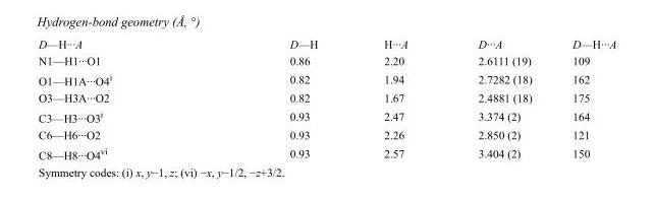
<table><tbody><tr><td>D—H···A</td><td>D—H</td><td>H···A</td><td>D···A</td><td>D—H···A</td></tr><tr><td>N1—H1···O1</td><td>0.86</td><td>2.20</td><td>2.6111 (19)</td><td>109</td></tr><tr><td>O1—H1A···O4<sup>i</sup></td><td>0.82</td><td>1.94</td><td>2.7282 (18)</td><td>162</td></tr><tr><td>O3—H3A···O2</td><td>0.82</td><td>1.67</td><td>2.4881 (18)</td><td>175</td></tr><tr><td>C3—H3···O3<sup>i</sup></td><td>0.93</td><td>2.47</td><td>3.374 (2)</td><td>164</td></tr><tr><td>C6—H6···O2</td><td>0.93</td><td>2.26</td><td>2.850 (2)</td><td>121</td></tr><tr><td>C8—H8···O4<sup>vi</sup></td><td>0.93</td><td>2.57</td><td>3.404 (2)</td><td>150</td></tr></tbody></table>